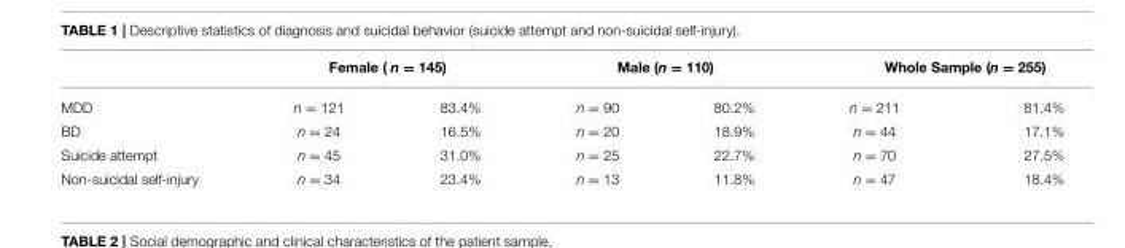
<table><thead><tr><td rowspan="2">MDD</td><td colspan="2">Female ( n = 145)</td><td colspan="2">Male (n = 110)</td><td colspan="2">Whole Sample (n = 255)</td></tr><tr><td>n = 121</td><td>83.4%</td><td>n = 90</td><td>80.2%</td><td>n = 211</td><td>81.4%</td></tr></thead><tbody><tr><td>BD</td><td>n = 24</td><td>16.5%</td><td>n = 20</td><td>18.9%</td><td>n = 44</td><td>17.1%</td></tr><tr><td>Suicide attempt</td><td>n = 45</td><td>31.0%</td><td>n = 25</td><td>22.7%</td><td>n = 70</td><td>27.5%</td></tr><tr><td>Non-suicidal self-injury</td><td>n = 34</td><td>23.4%</td><td>n = 13</td><td>11.8%</td><td>n = 47</td><td>18.4%</td></tr></tbody></table>